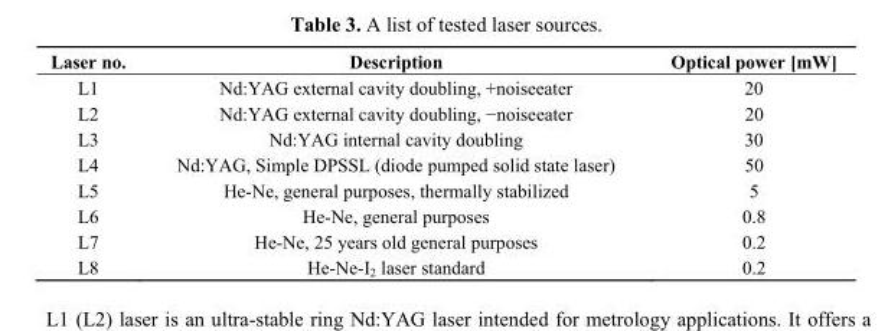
<table><thead><tr><td>Laser no.</td><td>Description</td><td>Optical power [mW]</td></tr></thead><tbody><tr><td>L1</td><td>Nd:YAG external cavity doubling, +noiseeater</td><td>20</td></tr><tr><td>L2</td><td>Nd:YAG external cavity doubling, −noiseeater</td><td>20</td></tr><tr><td>L3</td><td>Nd:YAG internal cavity doubling</td><td>30</td></tr><tr><td>L4</td><td>Nd:YAG, Simple DPSSL (diode pumped solid state laser)</td><td>50</td></tr><tr><td>L5</td><td>He-Ne, general purposes, thermally stabilized</td><td>5</td></tr><tr><td>L6</td><td>He-Ne, general purposes</td><td>0.8</td></tr><tr><td>L7</td><td>He-Ne, 25 years old general purposes</td><td>0.2</td></tr><tr><td>L8</td><td>He-Ne-I<sub>2</sub> laser standard</td><td>0.2</td></tr></tbody></table>